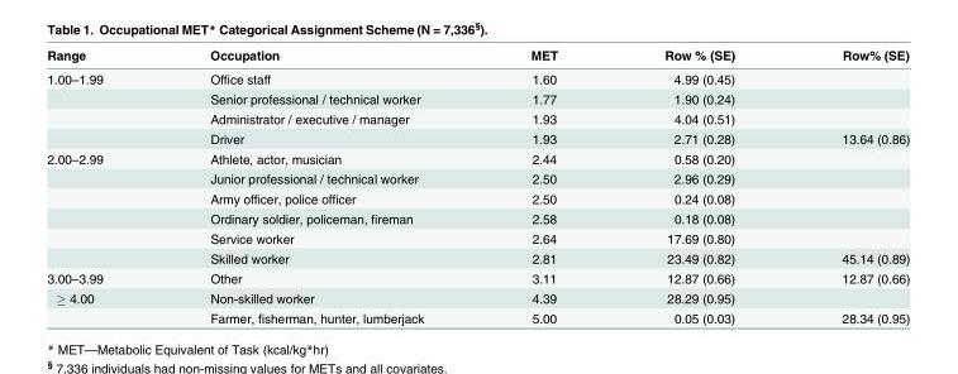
<table><thead><tr><td>Range</td><td>Occupation</td><td>MET</td><td>Row % (SE)</td><td>Row% (SE)</td></tr></thead><tbody><tr><td rowspan="4">1.00–1.99</td><td>Office staff</td><td>1.60</td><td>4.99 (0.45)</td><td></td></tr><tr><td>Senior professional / technical worker</td><td>1.77</td><td>1.90 (0.24)</td><td></td></tr><tr><td>Administrator / executive / manager</td><td>1.93</td><td>4.04 (0.51)</td><td></td></tr><tr><td>Driver</td><td>1.93</td><td>2.71 (0.28)</td><td>13.64 (0.86)</td></tr><tr><td rowspan="6">2.00–2.99</td><td>Athlete, actor, musician</td><td>2.44</td><td>0.58 (0.20)</td><td></td></tr><tr><td>Junior professional / technical worker</td><td>2.50</td><td>2.96 (0.29)</td><td></td></tr><tr><td>Army officer, police officer</td><td>2.50</td><td>0.24 (0.08)</td><td></td></tr><tr><td>Ordinary soldier, policeman, fireman</td><td>2.58</td><td>0.18 (0.08)</td><td></td></tr><tr><td>Service worker</td><td>2.64</td><td>17.69 (0.80)</td><td></td></tr><tr><td>Skilled worker</td><td>2.81</td><td>23.49 (0.82)</td><td>45.14 (0.89)</td></tr><tr><td>3.00–3.99</td><td>Other</td><td>3.11</td><td>12.87 (0.66)</td><td>12.87 (0.66)</td></tr><tr><td rowspan="2">≥ 4.00</td><td>Non-skilled worker</td><td>4.39</td><td>28.29 (0.95)</td><td></td></tr><tr><td>Farmer, fisherman, hunter, lumberjack</td><td>5.00</td><td>0.05 (0.03)</td><td>28.34 (0.95)</td></tr></tbody></table>